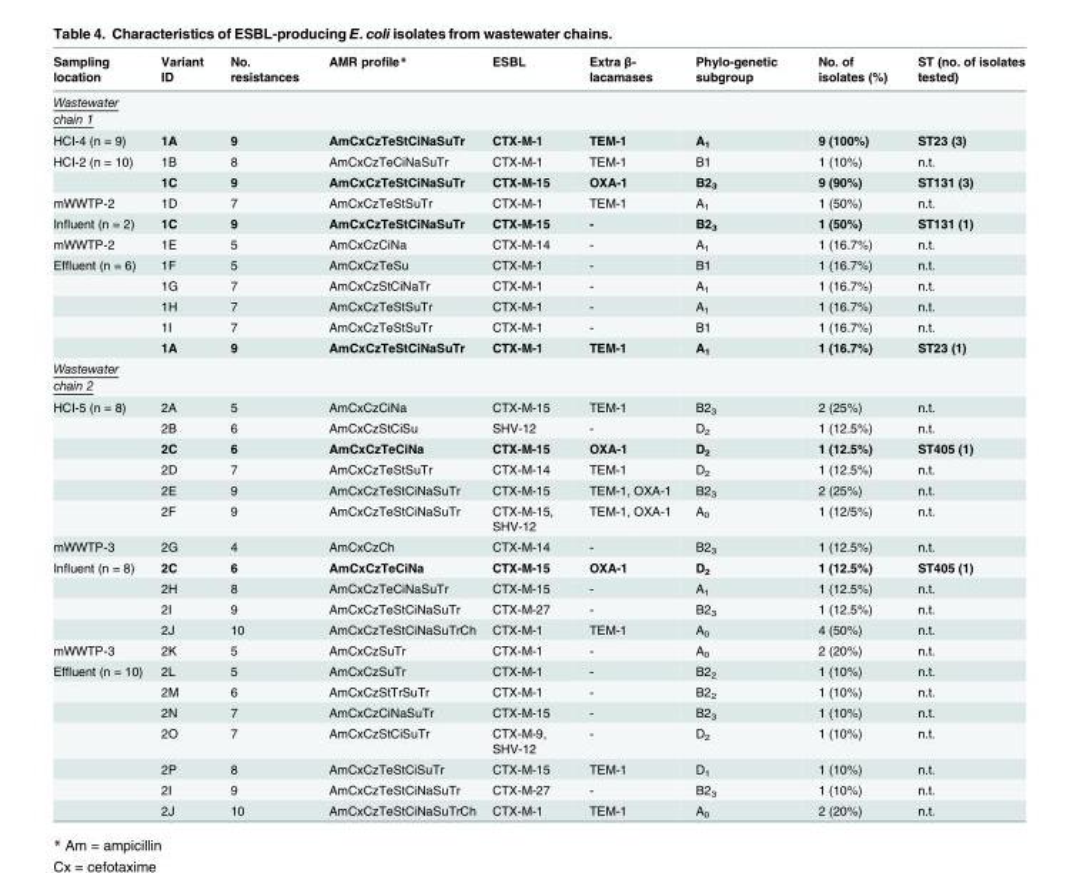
<table><thead><tr><td>Sampling location</td><td>Variant ID</td><td>No. resistances</td><td>AMR profile*</td><td>ESBL</td><td>Extra β- lacamases</td><td>Phylo-genetic subgroup</td><td>No. of isolates (%)</td><td>ST (no. of isolates tested)</td></tr></thead><tbody><tr><td colspan="9">Wastewater chain 1</td></tr><tr><td>HCI-4 (n = 9)</td><td>1A</td><td>9</td><td>AmCxCzTeStCiNaSuTr</td><td>CTX-M-1</td><td>TEM-1</td><td>A<sub>1</sub></td><td>9 (100%)</td><td>ST23 (3)</td></tr><tr><td rowspan="2">HCI-2 (n = 10)</td><td>1B</td><td>8</td><td>AmCxCzTeCiNaSuTr</td><td>CTX-M-1</td><td>TEM-1</td><td>B1</td><td>1 (10%)</td><td>n.t.</td></tr><tr><td>1C</td><td>9</td><td>AmCxCzTeStCiNaSuTr</td><td>CTX-M-15</td><td>OXA-1</td><td>B2<sub>3</sub></td><td>9 (90%)</td><td>ST131 (3)</td></tr><tr><td>mWWTP-2</td><td>1D</td><td>7</td><td>AmCxCzTeStSuTr</td><td>CTX-M-1</td><td>TEM-1</td><td>A<sub>1</sub></td><td>1 (50%)</td><td>n.t.</td></tr><tr><td>Influent (n = 2)</td><td>1C</td><td>9</td><td>AmCxCzTeStCiNaSuTr</td><td>CTX-M-15</td><td>-</td><td>B2<sub>3</sub></td><td>1 (50%)</td><td>ST131 (1)</td></tr><tr><td>mWWTP-2</td><td>1E</td><td>5</td><td>AmCxCzCiNa</td><td>CTX-M-14</td><td>-</td><td>A<sub>1</sub></td><td>1 (16.7%)</td><td>n.t.</td></tr><tr><td rowspan="5">Effluent (n = 6)</td><td>1F</td><td>5</td><td>AmCxCzTeSu</td><td>CTX-M-1</td><td>-</td><td>B1</td><td>1 (16.7%)</td><td>n.t.</td></tr><tr><td>1G</td><td>7</td><td>AmCxCzStCiNaTr</td><td>CTX-M-1</td><td>-</td><td>A<sub>1</sub></td><td>1 (16.7%)</td><td>n.t.</td></tr><tr><td>1H</td><td>7</td><td>AmCxCzTeStSuTr</td><td>CTX-M-1</td><td>-</td><td>A<sub>1</sub></td><td>1 (16.7%)</td><td>n.t.</td></tr><tr><td>1I</td><td>7</td><td>AmCxCzTeStSuTr</td><td>CTX-M-1</td><td>-</td><td>B1</td><td>1 (16.7%)</td><td>n.t.</td></tr><tr><td>1A</td><td>9</td><td>AmCxCzTeStCiNaSuTr</td><td>CTX-M-1</td><td>TEM-1</td><td>A<sub>1</sub></td><td>1 (16.7%)</td><td>ST23 (1)</td></tr><tr><td colspan="9">Wastewater chain 2</td></tr><tr><td rowspan="6">HCI-5 (n = 8)</td><td>2A</td><td>5</td><td>AmCxCzCiNa</td><td>CTX-M-15</td><td>TEM-1</td><td>B2<sub>3</sub></td><td>2 (25%)</td><td>n.t.</td></tr><tr><td>2B</td><td>6</td><td>AmCxCzStCiSu</td><td>SHV-12</td><td>-</td><td>D<sub>2</sub></td><td>1 (12.5%)</td><td>n.t.</td></tr><tr><td>2C</td><td>6</td><td>AmCxCzTeCiNa</td><td>CTX-M-15</td><td>OXA-1</td><td>D<sub>2</sub></td><td>1 (12.5%)</td><td>ST405 (1)</td></tr><tr><td>2D</td><td>7</td><td>AmCxCzTeStSuTr</td><td>CTX-M-14</td><td>TEM-1</td><td>D<sub>2</sub></td><td>1 (12.5%)</td><td>n.t.</td></tr><tr><td>2E</td><td>9</td><td>AmCxCzTeStCiNaSuTr</td><td>CTX-M-15</td><td>TEM-1, OXA-1</td><td>B2<sub>3</sub></td><td>2 (25%)</td><td>n.t.</td></tr><tr><td>2F</td><td>9</td><td>AmCxCzTeStCiNaSuTr</td><td>CTX-M-15, SHV-12</td><td>TEM-1, OXA-1</td><td>A<sub>0</sub></td><td>1 (12/5%)</td><td>n.t.</td></tr><tr><td>mWWTP-3</td><td>2G</td><td>4</td><td>AmCxCzCh</td><td>CTX-M-14</td><td>-</td><td>B2<sub>3</sub></td><td>1 (12.5%)</td><td>n.t.</td></tr><tr><td rowspan="4">Influent (n = 8)</td><td>2C</td><td>6</td><td>AmCxCzTeCiNa</td><td>CTX-M-15</td><td>OXA-1</td><td>D<sub>2</sub></td><td>1 (12.5%)</td><td>ST405 (1)</td></tr><tr><td>2H</td><td>8</td><td>AmCxCzTeCiNaSuTr</td><td>CTX-M-15</td><td>-</td><td>A<sub>1</sub></td><td>1 (12.5%)</td><td>n.t.</td></tr><tr><td>2I</td><td>9</td><td>AmCxCzTeStCiNaSuTr</td><td>CTX-M-27</td><td>-</td><td>B2<sub>3</sub></td><td>1 (12.5%)</td><td>n.t.</td></tr><tr><td>2J</td><td>10</td><td>AmCxCzTeStCiNaSuTrCh</td><td>CTX-M-1</td><td>TEM-1</td><td>A<sub>0</sub></td><td>4 (50%)</td><td>n.t.</td></tr><tr><td>mWWTP-3</td><td>2K</td><td>5</td><td>AmCxCzSuTr</td><td>CTX-M-1</td><td>-</td><td>A<sub>0</sub></td><td>2 (20%)</td><td>n.t.</td></tr><tr><td rowspan="7">Effluent (n = 10)</td><td>2L</td><td>5</td><td>AmCxCzSuTr</td><td>CTX-M-1</td><td>-</td><td>B2<sub>2</sub></td><td>1 (10%)</td><td>n.t.</td></tr><tr><td>2M</td><td>6</td><td>AmCxCzStTrSuTr</td><td>CTX-M-1</td><td>-</td><td>B2<sub>2</sub></td><td>1 (10%)</td><td>n.t.</td></tr><tr><td>2N</td><td>7</td><td>AmCxCzCiNaSuTr</td><td>CTX-M-15</td><td>-</td><td>B2<sub>3</sub></td><td>1 (10%)</td><td>n.t.</td></tr><tr><td>2O</td><td>7</td><td>AmCxCzStCiSuTr</td><td>CTX-M-9, SHV-12</td><td>-</td><td>D<sub>2</sub></td><td>1 (10%)</td><td>n.t.</td></tr><tr><td>2P</td><td>8</td><td>AmCxCzTeStCiSuTr</td><td>CTX-M-15</td><td>TEM-1</td><td>D<sub>1</sub></td><td>1 (10%)</td><td>n.t.</td></tr><tr><td>2I</td><td>9</td><td>AmCxCzTeStCiNaSuTr</td><td>CTX-M-27</td><td>-</td><td>B2<sub>3</sub></td><td>1 (10%)</td><td>n.t.</td></tr><tr><td>2J</td><td>10</td><td>AmCxCzTeStCiNaSuTrCh</td><td>CTX-M-1</td><td>TEM-1</td><td>A<sub>0</sub></td><td>2 (20%)</td><td>n.t.</td></tr></tbody></table>